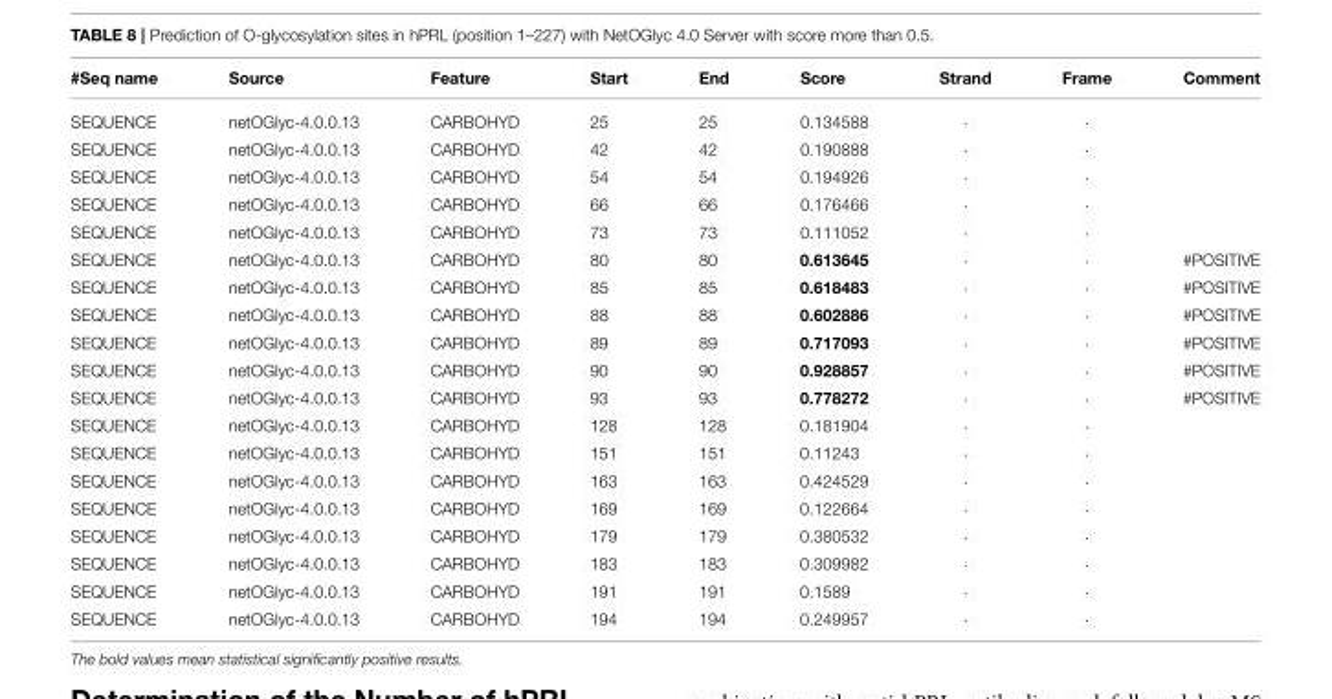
<table><thead><tr><td>#Seq name</td><td>Source</td><td>Feature</td><td>Start</td><td>End</td><td>Score</td><td>Strand</td><td>Frame</td><td>Comment</td></tr></thead><tbody><tr><td>SEQUENCE</td><td>netOGlyc-4.0.0.13</td><td>CARBOHYD</td><td>25</td><td>25</td><td>0.134588</td><td>·</td><td>·</td><td></td></tr><tr><td>SEQUENCE</td><td>netOGlyc-4.0.0.13</td><td>CARBOHYD</td><td>42</td><td>42</td><td>0.190888</td><td>·</td><td>·</td><td></td></tr><tr><td>SEQUENCE</td><td>netOGlyc-4.0.0.13</td><td>CARBOHYD</td><td>54</td><td>54</td><td>0.194926</td><td>·</td><td>·</td><td></td></tr><tr><td>SEQUENCE</td><td>netOGlyc-4.0.0.13</td><td>CARBOHYD</td><td>66</td><td>66</td><td>0.176466</td><td>·</td><td>·</td><td></td></tr><tr><td>SEQUENCE</td><td>netOGlyc-4.0.0.13</td><td>CARBOHYD</td><td>73</td><td>73</td><td>0.111052</td><td>·</td><td>·</td><td></td></tr><tr><td>SEQUENCE</td><td>netOGlyc-4.0.0.13</td><td>CARBOHYD</td><td>80</td><td>80</td><td>0.613645</td><td>·</td><td>·</td><td>#POSITIVE</td></tr><tr><td>SEQUENCE</td><td>netOGlyc-4.0.0.13</td><td>CARBOHYD</td><td>85</td><td>85</td><td>0.618483</td><td>·</td><td>·</td><td>#POSITIVE</td></tr><tr><td>SEQUENCE</td><td>netOGlyc-4.0.0.13</td><td>CARBOHYD</td><td>88</td><td>88</td><td>0.602886</td><td>·</td><td>·</td><td>#POSITIVE</td></tr><tr><td>SEQUENCE</td><td>netOGlyc-4.0.0.13</td><td>CARBOHYD</td><td>89</td><td>89</td><td>0.717093</td><td>·</td><td>·</td><td>#POSITIVE</td></tr><tr><td>SEQUENCE</td><td>netOGlyc-4.0.0.13</td><td>CARBOHYD</td><td>90</td><td>90</td><td>0.928857</td><td>·</td><td>·</td><td>#POSITIVE</td></tr><tr><td>SEQUENCE</td><td>netOGlyc-4.0.0.13</td><td>CARBOHYD</td><td>93</td><td>93</td><td>0.778272</td><td>·</td><td>·</td><td>#POSITIVE</td></tr><tr><td>SEQUENCE</td><td>netOGlyc-4.0.0.13</td><td>CARBOHYD</td><td>128</td><td>128</td><td>0.181904</td><td>·</td><td>·</td><td></td></tr><tr><td>SEQUENCE</td><td>netOGlyc-4.0.0.13</td><td>CARBOHYD</td><td>151</td><td>151</td><td>0.11243</td><td>·</td><td>·</td><td></td></tr><tr><td>SEQUENCE</td><td>netOGlyc-4.0.0.13</td><td>CARBOHYD</td><td>163</td><td>163</td><td>0.424529</td><td>·</td><td>·</td><td></td></tr><tr><td>SEQUENCE</td><td>netOGlyc-4.0.0.13</td><td>CARBOHYD</td><td>169</td><td>169</td><td>0.122664</td><td>·</td><td>·</td><td></td></tr><tr><td>SEQUENCE</td><td>netOGlyc-4.0.0.13</td><td>CARBOHYD</td><td>179</td><td>179</td><td>0.380532</td><td>·</td><td>·</td><td></td></tr><tr><td>SEQUENCE</td><td>netOGlyc-4.0.0.13</td><td>CARBOHYD</td><td>183</td><td>183</td><td>0.309982</td><td>·</td><td>·</td><td></td></tr><tr><td>SEQUENCE</td><td>netOGlyc-4.0.0.13</td><td>CARBOHYD</td><td>191</td><td>191</td><td>0.1589</td><td>·</td><td>·</td><td></td></tr><tr><td>SEQUENCE</td><td>netOGlyc-4.0.0.13</td><td>CARBOHYD</td><td>194</td><td>194</td><td>0.249957</td><td>·</td><td>·</td><td></td></tr></tbody></table>